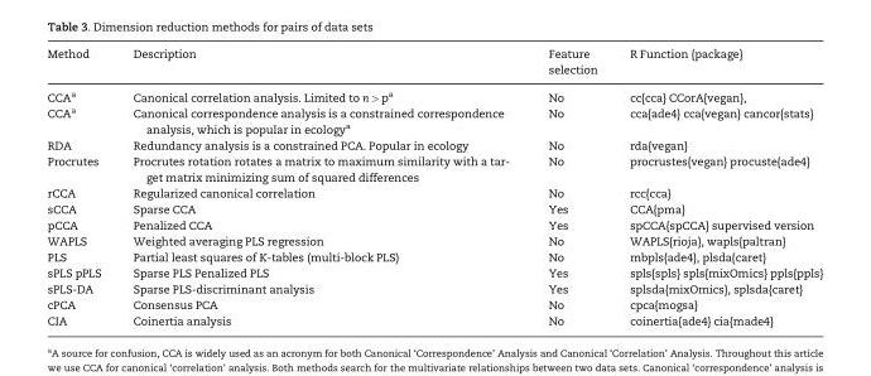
<table><thead><tr><td>Method</td><td>Description</td><td>Feature selection</td><td>R Function {package}</td></tr></thead><tbody><tr><td>CCA<sup>a</sup></td><td>Canonical correlation analysis. Limited to n &gt; p<sup>a</sup></td><td>No</td><td>cc{cca} CCorA{vegan},</td></tr><tr><td>CCA<sup>a</sup></td><td>Canonical correspondence analysis is a constrained correspondence analysis, which is popular in ecology<sup>a</sup></td><td>No</td><td>cca{ade4} cca{vegan} cancor{stats}</td></tr><tr><td>RDA</td><td>Redundancy analysis is a constrained PCA. Popular in ecology</td><td>No</td><td>rda{vegan}</td></tr><tr><td>Procrutes</td><td>Procrutes rotation rotates a matrix to maximum similarity with a tar- get matrix minimizing sum of squared differences</td><td>No</td><td>procrustes{vegan} procuste{ade4}</td></tr><tr><td>rCCA</td><td>Regularized canonical correlation</td><td>No</td><td>rcc{cca}</td></tr><tr><td>sCCA</td><td>Sparse CCA</td><td>Yes</td><td>CCA{pma}</td></tr><tr><td>pCCA</td><td>Penalized CCA</td><td>Yes</td><td>spCCA{spCCA} supervised version</td></tr><tr><td>WAPLS</td><td>Weighted averaging PLS regression</td><td>No</td><td>WAPLS{rioja}, wapls{paltran}</td></tr><tr><td>PLS</td><td>Partial least squares of K-tables (multi-block PLS)</td><td>No</td><td>mbpls{ade4}, plsda{caret}</td></tr><tr><td>sPLS pPLS</td><td>Sparse PLS Penalized PLS</td><td>Yes</td><td>spls{spls} spls{mixOmics} ppls{ppls}</td></tr><tr><td>sPLS-DA</td><td>Sparse PLS-discriminant analysis</td><td>Yes</td><td>splsda{mixOmics}, splsda{caret}</td></tr><tr><td>cPCA</td><td>Consensus PCA</td><td>No</td><td>cpca{mogsa}</td></tr><tr><td>CIA</td><td>Coinertia analysis</td><td>No</td><td>coinertia{ade4} cia{made4}</td></tr></tbody></table>